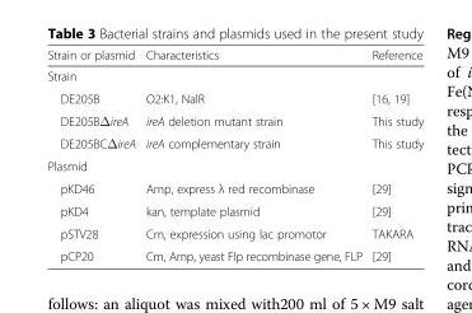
<table><thead><tr><td>Strain or plasmid</td><td>Characteristics</td><td>Reference</td></tr></thead><tbody><tr><td colspan="3">Strain</td></tr><tr><td>DE205B</td><td>O2:K1, NalR</td><td>[16, 19]</td></tr><tr><td>DE205BΔireA</td><td>ireA deletion mutant strain</td><td>This study</td></tr><tr><td>DE205BCΔireA</td><td>ireA complementary strain</td><td>This study</td></tr><tr><td colspan="3">Plasmid</td></tr><tr><td>pKD46</td><td>Amp, express λ red recombinase</td><td>[29]</td></tr><tr><td>pKD4</td><td>kan, template plasmid</td><td>[29]</td></tr><tr><td>pSTV28</td><td>Cm, expression using lac promotor</td><td>TAKARA</td></tr><tr><td>pCP20</td><td>Cm, Amp, yeast Flp recombinase gene, FLP</td><td>[29]</td></tr></tbody></table>